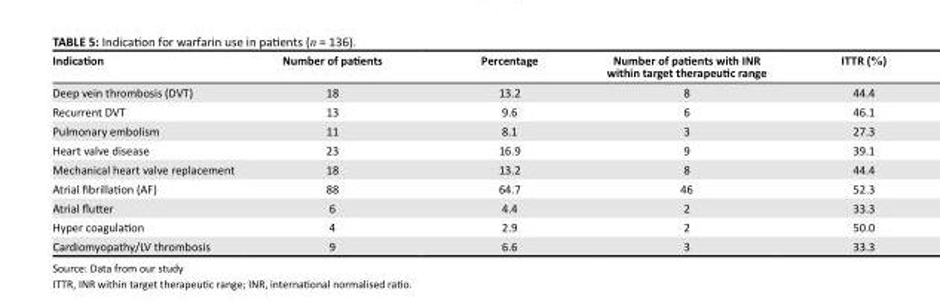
<table><thead><tr><td>Indication</td><td>Number of patients</td><td>Percentage</td><td>Number of patients with INR within target therapeutic range</td><td>ITTR (%)</td></tr></thead><tbody><tr><td>Deep vein thrombosis (DVT)</td><td>18</td><td>13.2</td><td>8</td><td>44.4</td></tr><tr><td>Recurrent DVT</td><td>13</td><td>9.6</td><td>6</td><td>46.1</td></tr><tr><td>Pulmonary embolism</td><td>11</td><td>8.1</td><td>3</td><td>27.3</td></tr><tr><td>Heart valve disease</td><td>23</td><td>16.9</td><td>9</td><td>39.1</td></tr><tr><td>Mechanical heart valve replacement</td><td>18</td><td>13.2</td><td>8</td><td>44.4</td></tr><tr><td>Atrial fibrillation (AF)</td><td>88</td><td>64.7</td><td>46</td><td>52.3</td></tr><tr><td>Atrial flutter</td><td>6</td><td>4.4</td><td>2</td><td>33.3</td></tr><tr><td>Hyper coagulation</td><td>4</td><td>2.9</td><td>2</td><td>50.0</td></tr><tr><td>Cardiomyopathy/LV thrombosis</td><td>9</td><td>6.6</td><td>3</td><td>33.3</td></tr></tbody></table>